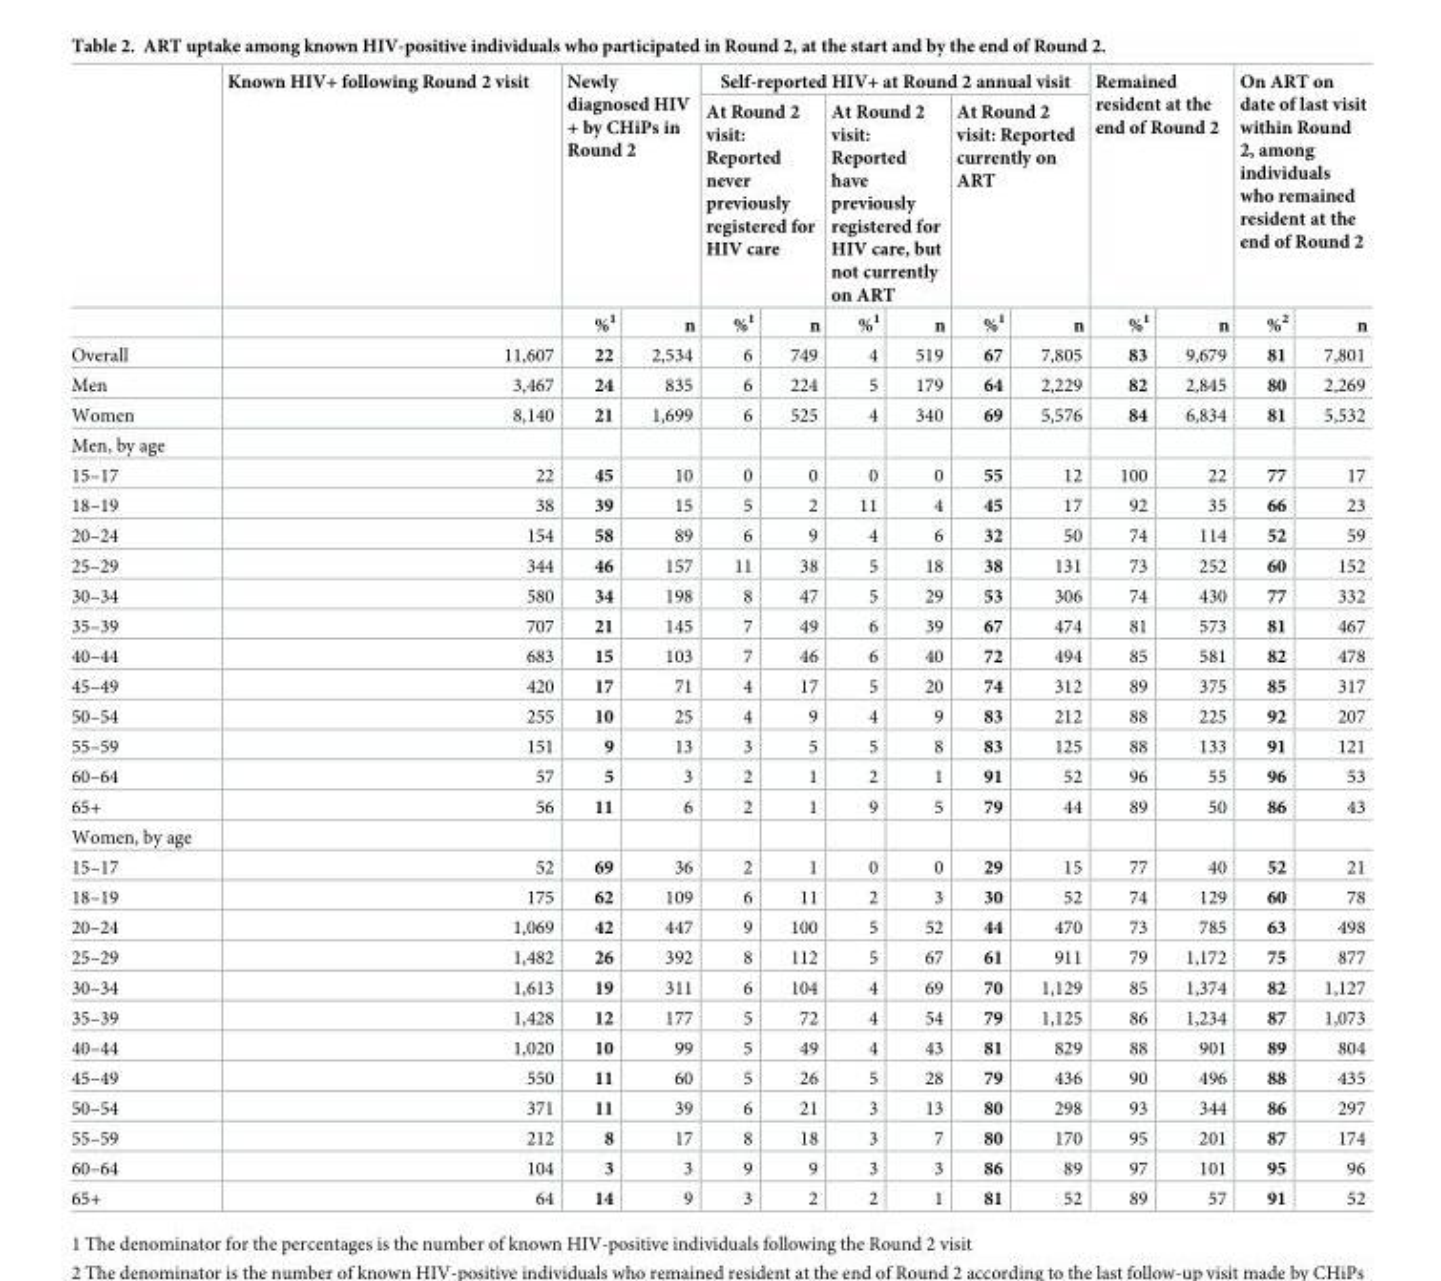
<table><thead><tr><td rowspan="3"></td><td rowspan="3">Known HIV+ following Round 2 visit</td><td rowspan="2" colspan="2">Newly diagnosed HIV + by CHiPs in Round 2</td><td colspan="6">Self-reported HIV+ at Round 2 annual visit</td><td rowspan="2" colspan="2">Remained resident at the end of Round 2</td><td rowspan="2" colspan="2">On ART on date of last visit within Round 2, among individuals who remained resident at the end of Round 2</td></tr><tr><td colspan="2">At Round 2 visit: Reported never previously registered for HIV care</td><td colspan="2">At Round 2 visit: Reported have previously registered for HIV care, but not currently on ART</td><td colspan="2">At Round 2 visit: Reported currently on ART</td></tr><tr><td>%<sup>1</sup></td><td>n</td><td>%<sup>1</sup></td><td>n</td><td>%<sup>1</sup></td><td>n</td><td>%<sup>1</sup></td><td>n</td><td>%<sup>1</sup></td><td>n</td><td>%<sup>2</sup></td><td>n</td></tr></thead><tbody><tr><td>Overall</td><td>11,607</td><td>22</td><td>2,534</td><td>6</td><td>749</td><td>4</td><td>519</td><td>67</td><td>7,805</td><td>83</td><td>9,679</td><td>81</td><td>7,801</td></tr><tr><td>Men</td><td>3,467</td><td>24</td><td>835</td><td>6</td><td>224</td><td>5</td><td>179</td><td>64</td><td>2,229</td><td>82</td><td>2,845</td><td>80</td><td>2,269</td></tr><tr><td>Women</td><td>8,140</td><td>21</td><td>1,699</td><td>6</td><td>525</td><td>4</td><td>340</td><td>69</td><td>5,576</td><td>84</td><td>6,834</td><td>81</td><td>5,532</td></tr><tr><td colspan="14">Men, by age</td></tr><tr><td>15–17</td><td>22</td><td>45</td><td>10</td><td>0</td><td>0</td><td>0</td><td>0</td><td>55</td><td>12</td><td>100</td><td>22</td><td>77</td><td>17</td></tr><tr><td>18–19</td><td>38</td><td>39</td><td>15</td><td>5</td><td>2</td><td>11</td><td>4</td><td>45</td><td>17</td><td>92</td><td>35</td><td>66</td><td>23</td></tr><tr><td>20–24</td><td>154</td><td>58</td><td>89</td><td>6</td><td>9</td><td>4</td><td>6</td><td>32</td><td>50</td><td>74</td><td>114</td><td>52</td><td>59</td></tr><tr><td>25–29</td><td>344</td><td>46</td><td>157</td><td>11</td><td>38</td><td>5</td><td>18</td><td>38</td><td>131</td><td>73</td><td>252</td><td>60</td><td>152</td></tr><tr><td>30–34</td><td>580</td><td>34</td><td>198</td><td>8</td><td>47</td><td>5</td><td>29</td><td>53</td><td>306</td><td>74</td><td>430</td><td>77</td><td>332</td></tr><tr><td>35–39</td><td>707</td><td>21</td><td>145</td><td>7</td><td>49</td><td>6</td><td>39</td><td>67</td><td>474</td><td>81</td><td>573</td><td>81</td><td>467</td></tr><tr><td>40–44</td><td>683</td><td>15</td><td>103</td><td>7</td><td>46</td><td>6</td><td>40</td><td>72</td><td>494</td><td>85</td><td>581</td><td>82</td><td>478</td></tr><tr><td>45–49</td><td>420</td><td>17</td><td>71</td><td>4</td><td>17</td><td>5</td><td>20</td><td>74</td><td>312</td><td>89</td><td>375</td><td>85</td><td>317</td></tr><tr><td>50–54</td><td>255</td><td>10</td><td>25</td><td>4</td><td>9</td><td>4</td><td>9</td><td>83</td><td>212</td><td>88</td><td>225</td><td>92</td><td>207</td></tr><tr><td>55–59</td><td>151</td><td>9</td><td>13</td><td>3</td><td>5</td><td>5</td><td>8</td><td>83</td><td>125</td><td>88</td><td>133</td><td>91</td><td>121</td></tr><tr><td>60–64</td><td>57</td><td>5</td><td>3</td><td>2</td><td>1</td><td>2</td><td>1</td><td>91</td><td>52</td><td>96</td><td>55</td><td>96</td><td>53</td></tr><tr><td>65+</td><td>56</td><td>11</td><td>6</td><td>2</td><td>1</td><td>9</td><td>5</td><td>79</td><td>44</td><td>89</td><td>50</td><td>86</td><td>43</td></tr><tr><td colspan="14">Women, by age</td></tr><tr><td>15–17</td><td>52</td><td>69</td><td>36</td><td>2</td><td>1</td><td>0</td><td>0</td><td>29</td><td>15</td><td>77</td><td>40</td><td>52</td><td>21</td></tr><tr><td>18–19</td><td>175</td><td>62</td><td>109</td><td>6</td><td>11</td><td>2</td><td>3</td><td>30</td><td>52</td><td>74</td><td>129</td><td>60</td><td>78</td></tr><tr><td>20–24</td><td>1,069</td><td>42</td><td>447</td><td>9</td><td>100</td><td>5</td><td>52</td><td>44</td><td>470</td><td>73</td><td>785</td><td>63</td><td>498</td></tr><tr><td>25–29</td><td>1,482</td><td>26</td><td>392</td><td>8</td><td>112</td><td>5</td><td>67</td><td>61</td><td>911</td><td>79</td><td>1,172</td><td>75</td><td>877</td></tr><tr><td>30–34</td><td>1,613</td><td>19</td><td>311</td><td>6</td><td>104</td><td>4</td><td>69</td><td>70</td><td>1,129</td><td>85</td><td>1,374</td><td>82</td><td>1,127</td></tr><tr><td>35–39</td><td>1,428</td><td>12</td><td>177</td><td>5</td><td>72</td><td>4</td><td>54</td><td>79</td><td>1,125</td><td>86</td><td>1,234</td><td>87</td><td>1,073</td></tr><tr><td>40–44</td><td>1,020</td><td>10</td><td>99</td><td>5</td><td>49</td><td>4</td><td>43</td><td>81</td><td>829</td><td>88</td><td>901</td><td>89</td><td>804</td></tr><tr><td>45–49</td><td>550</td><td>11</td><td>60</td><td>5</td><td>26</td><td>5</td><td>28</td><td>79</td><td>436</td><td>90</td><td>496</td><td>88</td><td>435</td></tr><tr><td>50–54</td><td>371</td><td>11</td><td>39</td><td>6</td><td>21</td><td>3</td><td>13</td><td>80</td><td>298</td><td>93</td><td>344</td><td>86</td><td>297</td></tr><tr><td>55–59</td><td>212</td><td>8</td><td>17</td><td>8</td><td>18</td><td>3</td><td>7</td><td>80</td><td>170</td><td>95</td><td>201</td><td>87</td><td>174</td></tr><tr><td>60–64</td><td>104</td><td>3</td><td>3</td><td>9</td><td>9</td><td>3</td><td>3</td><td>86</td><td>89</td><td>97</td><td>101</td><td>95</td><td>96</td></tr><tr><td>65+</td><td>64</td><td>14</td><td>9</td><td>3</td><td>2</td><td>2</td><td>1</td><td>81</td><td>52</td><td>89</td><td>57</td><td>91</td><td>52</td></tr></tbody></table>